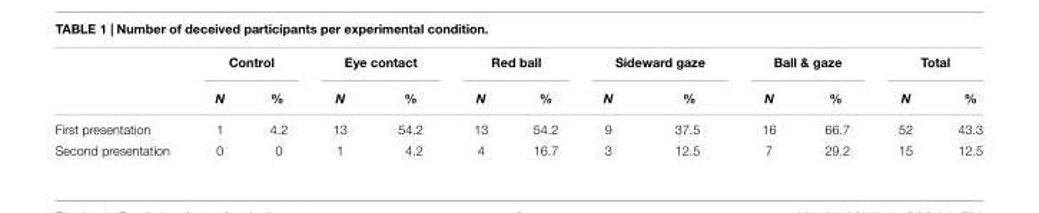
<table><thead><tr><td rowspan="2"></td><td colspan="2">Control</td><td colspan="2">Eye contact</td><td colspan="2">Red ball</td><td colspan="2">Sideward gaze</td><td colspan="2">Ball &amp; gaze</td><td colspan="2">Total</td></tr><tr><td>N</td><td>%</td><td>N</td><td>%</td><td>N</td><td>%</td><td>N</td><td>%</td><td>N</td><td>%</td><td>N</td><td>%</td></tr></thead><tbody><tr><td>First presentation</td><td>1</td><td>4.2</td><td>13</td><td>54.2</td><td>13</td><td>54.2</td><td>9</td><td>37.5</td><td>16</td><td>66.7</td><td>52</td><td>43.3</td></tr><tr><td>Second presentation</td><td>0</td><td>0</td><td>1</td><td>4.2</td><td>4</td><td>16.7</td><td>3</td><td>12.5</td><td>7</td><td>29.2</td><td>15</td><td>12.5</td></tr></tbody></table>